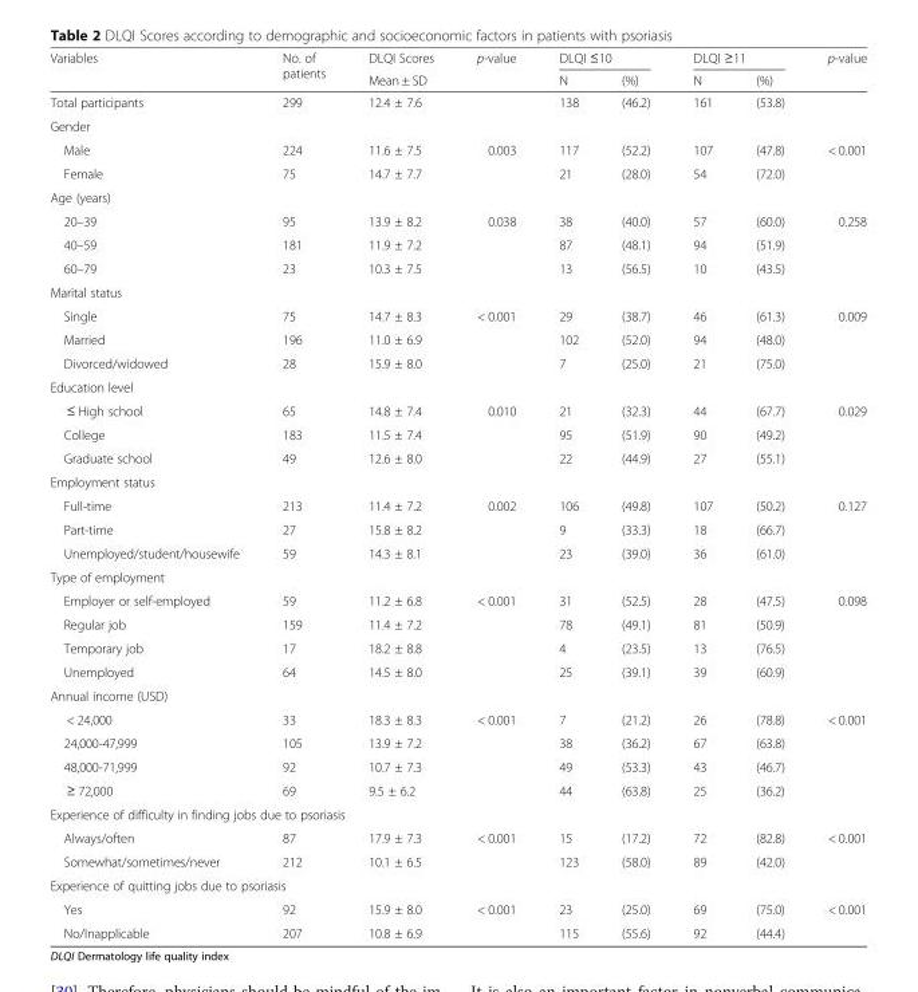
<table><thead><tr><td rowspan="2">Variables</td><td rowspan="2">No. of patients</td><td rowspan="2">DLQI Scores Mean ± SD</td><td rowspan="2">p-value</td><td colspan="2">DLQI ≤10</td><td colspan="2">DLQI ≥11</td><td rowspan="2">p-value</td></tr><tr><td>N</td><td>(%)</td><td>N</td><td>(%)</td></tr></thead><tbody><tr><td>Total participants</td><td>299</td><td>12.4 ± 7.6</td><td></td><td>138</td><td>(46.2)</td><td>161</td><td>(53.8)</td><td></td></tr><tr><td colspan="9">Gender</td></tr><tr><td>Male</td><td>224</td><td>11.6 ± 7.5</td><td>0.003</td><td>117</td><td>(52.2)</td><td>107</td><td>(47.8)</td><td>&lt; 0.001</td></tr><tr><td>Female</td><td>75</td><td>14.7 ± 7.7</td><td></td><td>21</td><td>(28.0)</td><td>54</td><td>(72.0)</td><td></td></tr><tr><td colspan="9">Age (years)</td></tr><tr><td>20–39</td><td>95</td><td>13.9 ± 8.2</td><td>0.038</td><td>38</td><td>(40.0)</td><td>57</td><td>(60.0)</td><td>0.258</td></tr><tr><td>40–59</td><td>181</td><td>11.9 ± 7.2</td><td></td><td>87</td><td>(48.1)</td><td>94</td><td>(51.9)</td><td></td></tr><tr><td>60–79</td><td>23</td><td>10.3 ± 7.5</td><td></td><td>13</td><td>(56.5)</td><td>10</td><td>(43.5)</td><td></td></tr><tr><td colspan="9">Marital status</td></tr><tr><td>Single</td><td>75</td><td>14.7 ± 8.3</td><td>&lt; 0.001</td><td>29</td><td>(38.7)</td><td>46</td><td>(61.3)</td><td>0.009</td></tr><tr><td>Married</td><td>196</td><td>11.0 ± 6.9</td><td></td><td>102</td><td>(52.0)</td><td>94</td><td>(48.0)</td><td></td></tr><tr><td>Divorced/widowed</td><td>28</td><td>15.9 ± 8.0</td><td></td><td>7</td><td>(25.0)</td><td>21</td><td>(75.0)</td><td></td></tr><tr><td colspan="9">Education level</td></tr><tr><td>≤ High school</td><td>65</td><td>14.8 ± 7.4</td><td>0.010</td><td>21</td><td>(32.3)</td><td>44</td><td>(67.7)</td><td>0.029</td></tr><tr><td>College</td><td>183</td><td>11.5 ± 7.4</td><td></td><td>95</td><td>(51.9)</td><td>90</td><td>(49.2)</td><td></td></tr><tr><td>Graduate school</td><td>49</td><td>12.6 ± 8.0</td><td></td><td>22</td><td>(44.9)</td><td>27</td><td>(55.1)</td><td></td></tr><tr><td colspan="9">Employment status</td></tr><tr><td>Full-time</td><td>213</td><td>11.4 ± 7.2</td><td>0.002</td><td>106</td><td>(49.8)</td><td>107</td><td>(50.2)</td><td>0.127</td></tr><tr><td>Part-time</td><td>27</td><td>15.8 ± 8.2</td><td></td><td>9</td><td>(33.3)</td><td>18</td><td>(66.7)</td><td></td></tr><tr><td>Unemployed/student/housewife</td><td>59</td><td>14.3 ± 8.1</td><td></td><td>23</td><td>(39.0)</td><td>36</td><td>(61.0)</td><td></td></tr><tr><td colspan="9">Type of employment</td></tr><tr><td>Employer or self-employed</td><td>59</td><td>11.2 ± 6.8</td><td>&lt; 0.001</td><td>31</td><td>(52.5)</td><td>28</td><td>(47.5)</td><td>0.098</td></tr><tr><td>Regular job</td><td>159</td><td>11.4 ± 7.2</td><td></td><td>78</td><td>(49.1)</td><td>81</td><td>(50.9)</td><td></td></tr><tr><td>Temporary job</td><td>17</td><td>18.2 ± 8.8</td><td></td><td>4</td><td>(23.5)</td><td>13</td><td>(76.5)</td><td></td></tr><tr><td>Unemployed</td><td>64</td><td>14.5 ± 8.0</td><td></td><td>25</td><td>(39.1)</td><td>39</td><td>(60.9)</td><td></td></tr><tr><td colspan="9">Annual income (USD)</td></tr><tr><td>&lt; 24,000</td><td>33</td><td>18.3 ± 8.3</td><td>&lt; 0.001</td><td>7</td><td>(21.2)</td><td>26</td><td>(78.8)</td><td>&lt; 0.001</td></tr><tr><td>24,000-47,999</td><td>105</td><td>13.9 ± 7.2</td><td></td><td>38</td><td>(36.2)</td><td>67</td><td>(63.8)</td><td></td></tr><tr><td>48,000-71,999</td><td>92</td><td>10.7 ± 7.3</td><td></td><td>49</td><td>(53.3)</td><td>43</td><td>(46.7)</td><td></td></tr><tr><td>≥ 72,000</td><td>69</td><td>9.5 ± 6.2</td><td></td><td>44</td><td>(63.8)</td><td>25</td><td>(36.2)</td><td></td></tr><tr><td colspan="9">Experience of difficulty in finding jobs due to psoriasis</td></tr><tr><td>Always/often</td><td>87</td><td>17.9 ± 7.3</td><td>&lt; 0.001</td><td>15</td><td>(17.2)</td><td>72</td><td>(82.8)</td><td>&lt; 0.001</td></tr><tr><td>Somewhat/sometimes/never</td><td>212</td><td>10.1 ± 6.5</td><td></td><td>123</td><td>(58.0)</td><td>89</td><td>(42.0)</td><td></td></tr><tr><td colspan="9">Experience of quitting jobs due to psoriasis</td></tr><tr><td>Yes</td><td>92</td><td>15.9 ± 8.0</td><td>&lt; 0.001</td><td>23</td><td>(25.0)</td><td>69</td><td>(75.0)</td><td>&lt; 0.001</td></tr><tr><td>No/Inapplicable</td><td>207</td><td>10.8 ± 6.9</td><td></td><td>115</td><td>(55.6)</td><td>92</td><td>(44.4)</td><td></td></tr></tbody></table>